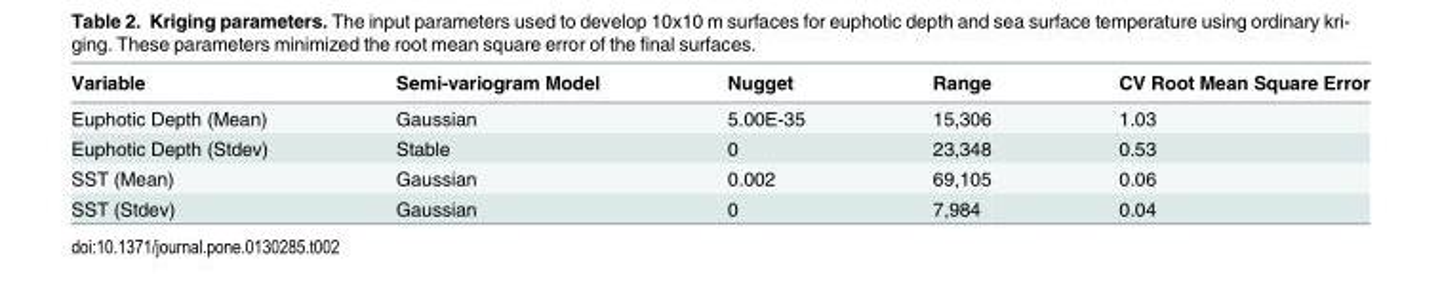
<table><thead><tr><td>Variable</td><td>Semi-variogram Model</td><td>Nugget</td><td>Range</td><td>CV Root Mean Square Error</td></tr></thead><tbody><tr><td>Euphotic Depth (Mean)</td><td>Gaussian</td><td>5.00E-35</td><td>15,306</td><td>1.03</td></tr><tr><td>Euphotic Depth (Stdev)</td><td>Stable</td><td>0</td><td>23,348</td><td>0.53</td></tr><tr><td>SST (Mean)</td><td>Gaussian</td><td>0.002</td><td>69,105</td><td>0.06</td></tr><tr><td>SST (Stdev)</td><td>Gaussian</td><td>0</td><td>7,984</td><td>0.04</td></tr></tbody></table>